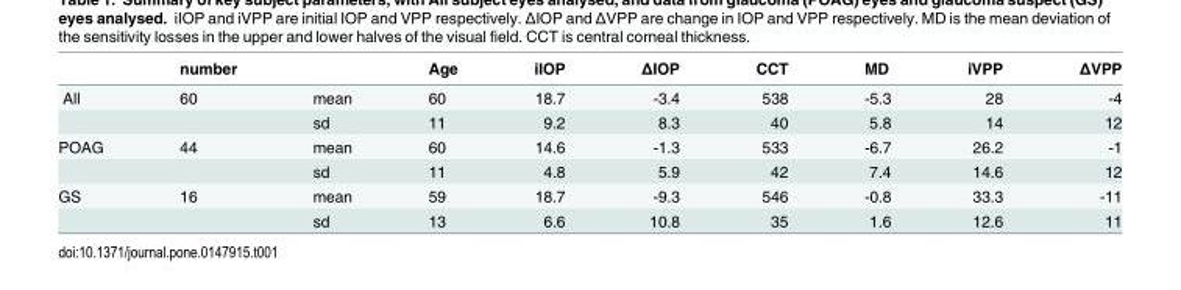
<table><thead><tr><td></td><td>number</td><td></td><td>Age</td><td>iIOP</td><td>ΔIOP</td><td>CCT</td><td>MD</td><td>iVPP</td><td>ΔVPP</td></tr></thead><tbody><tr><td rowspan="2">All</td><td>60</td><td>mean</td><td>60</td><td>18.7</td><td>-3.4</td><td>538</td><td>-5.3</td><td>28</td><td>-4</td></tr><tr><td></td><td>sd</td><td>11</td><td>9.2</td><td>8.3</td><td>40</td><td>5.8</td><td>14</td><td>12</td></tr><tr><td rowspan="2">POAG</td><td>44</td><td>mean</td><td>60</td><td>14.6</td><td>-1.3</td><td>533</td><td>-6.7</td><td>26.2</td><td>-1</td></tr><tr><td></td><td>sd</td><td>11</td><td>4.8</td><td>5.9</td><td>42</td><td>7.4</td><td>14.6</td><td>12</td></tr><tr><td rowspan="2">GS</td><td>16</td><td>mean</td><td>59</td><td>18.7</td><td>-9.3</td><td>546</td><td>-0.8</td><td>33.3</td><td>-11</td></tr><tr><td></td><td>sd</td><td>13</td><td>6.6</td><td>10.8</td><td>35</td><td>1.6</td><td>12.6</td><td>11</td></tr></tbody></table>